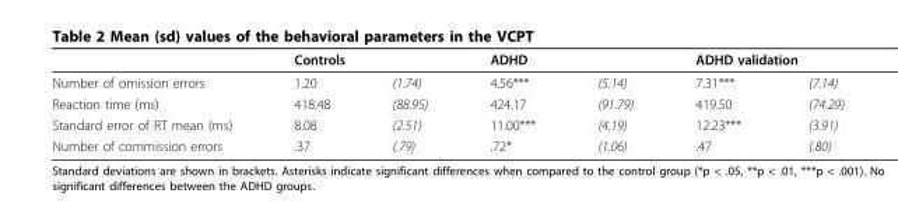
<table><thead><tr><td rowspan="2">Number of omission errors</td><td colspan="2">Controls</td><td colspan="2">ADHD</td><td colspan="2">ADHD validation</td></tr><tr><td>1.20</td><td>(1.74)</td><td>4.56***</td><td>(5.14)</td><td>7.31***</td><td>(7.14)</td></tr></thead><tbody><tr><td>Reaction time (ms)</td><td>418.48</td><td>(88.95)</td><td>424.17</td><td>(91.79)</td><td>419.50</td><td>(74.29)</td></tr><tr><td>Standard error of RT mean (ms)</td><td>8.08</td><td>(2.51)</td><td>11.00***</td><td>(4.19)</td><td>12.23***</td><td>(3.91)</td></tr><tr><td>Number of commission errors</td><td>.37</td><td>(.79)</td><td>.72*</td><td>(1.06)</td><td>.47</td><td>(.80)</td></tr></tbody></table>